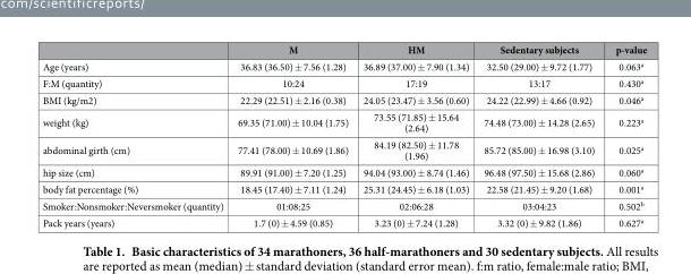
<table><thead><tr><td></td><td>M</td><td>HM</td><td>Sedentary subjects</td><td>p-value</td></tr></thead><tbody><tr><td>Age (years)</td><td>36.83 (36.50) ± 7.56 (1.28)</td><td>36.89 (37.00) ± 7.90 (1.34)</td><td>32.50 (29.00) ± 9.72 (1.77)</td><td>0.063<sup>a</sup></td></tr><tr><td>F:M (quantity)</td><td>10:24</td><td>17:19</td><td>13:17</td><td>0.430<sup>a</sup></td></tr><tr><td>BMI (kg/m2)</td><td>22.29 (22.51) ± 2.16 (0.38)</td><td>24.05 (23.47) ± 3.56 (0.60)</td><td>24.22 (22.99) ± 4.66 (0.92)</td><td>0.046<sup>a</sup></td></tr><tr><td>weight (kg)</td><td>69.35 (71.00) ± 10.04 (1.75)</td><td>73.55 (71.85) ± 15.64 (2.64)</td><td>74.48 (73.00) ± 14.28 (2.65)</td><td>0.223<sup>a</sup></td></tr><tr><td>abdominal girth (cm)</td><td>77.41 (78.00) ± 10.69 (1.86)</td><td>84.19 (82.50) ± 11.78 (1.96)</td><td>85.72 (85.00) ± 16.98 (3.10)</td><td>0.025<sup>a</sup></td></tr><tr><td>hip size (cm)</td><td>89.91 (91.00) ± 7.20 (1.25)</td><td>94.04 (93.00) ± 8.74 (1.46)</td><td>96.48 (97.50) ± 15.68 (2.86)</td><td>0.060<sup>a</sup></td></tr><tr><td>body fat percentage (%)</td><td>18.45 (17.40) ± 7.11 (1.24)</td><td>25.31 (24.45) ± 6.18 (1.03)</td><td>22.58 (21.45) ± 9.20 (1.68)</td><td>0.001<sup>a</sup></td></tr><tr><td>Smoker:Nonsmoker:Neversmoker (quantity)</td><td>01:08:25</td><td>02:06:28</td><td>03:04:23</td><td>0.502<sup>b</sup></td></tr><tr><td>Pack years (years)</td><td>1.7 (0) ± 4.59 (0.85)</td><td>3.23 (0) ± 7.24 (1.28)</td><td>3.32 (0) ± 9.82 (1.86)</td><td>0.627<sup>a</sup></td></tr></tbody></table>